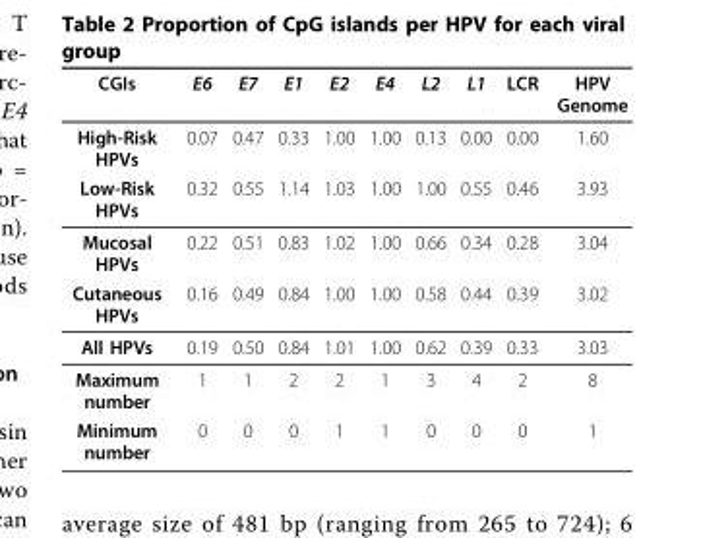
<table><thead><tr><td>CGIs</td><td>E6</td><td>E7</td><td>E1</td><td>E2</td><td>E4</td><td>L2</td><td>L1</td><td>LCR</td><td>HPV Genome</td></tr></thead><tbody><tr><td>High-Risk HPVs</td><td>0.07</td><td>0.47</td><td>0.33</td><td>1.00</td><td>1.00</td><td>0.13</td><td>0.00</td><td>0.00</td><td>1.60</td></tr><tr><td>Low-Risk HPVs</td><td>0.32</td><td>0.55</td><td>1.14</td><td>1.03</td><td>1.00</td><td>1.00</td><td>0.55</td><td>0.46</td><td>3.93</td></tr><tr><td>Mucosal HPVs</td><td>0.22</td><td>0.51</td><td>0.83</td><td>1.02</td><td>1.00</td><td>0.66</td><td>0.34</td><td>0.28</td><td>3.04</td></tr><tr><td>Cutaneous HPVs</td><td>0.16</td><td>0.49</td><td>0.84</td><td>1.00</td><td>1.00</td><td>0.58</td><td>0.44</td><td>0.39</td><td>3.02</td></tr><tr><td>All HPVs</td><td>0.19</td><td>0.50</td><td>0.84</td><td>1.01</td><td>1.00</td><td>0.62</td><td>0.39</td><td>0.33</td><td>3.03</td></tr><tr><td>Maximum number</td><td>1</td><td>1</td><td>2</td><td>2</td><td>1</td><td>3</td><td>4</td><td>2</td><td>8</td></tr><tr><td>Minimum number</td><td>0</td><td>0</td><td>0</td><td>1</td><td>1</td><td>0</td><td>0</td><td>0</td><td>1</td></tr></tbody></table>